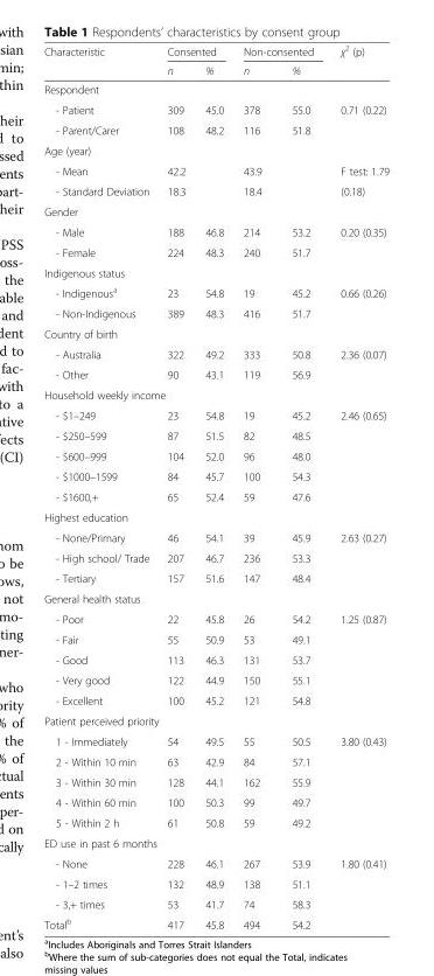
<table><thead><tr><td rowspan="2">Characteristic</td><td colspan="2">Consented</td><td colspan="2">Non-consented</td><td rowspan="2">χ<sup>2</sup> (p)</td></tr><tr><td>n</td><td>%</td><td>n</td><td>%</td></tr></thead><tbody><tr><td colspan="6">Respondent</td></tr><tr><td>- Patient</td><td>309</td><td>45.0</td><td>378</td><td>55.0</td><td>0.71 (0.22)</td></tr><tr><td>- Parent/Carer</td><td>108</td><td>48.2</td><td>116</td><td>51.8</td><td></td></tr><tr><td colspan="6">Age (year)</td></tr><tr><td>- Mean</td><td>42.2</td><td></td><td>43.9</td><td></td><td>F test: 1.79</td></tr><tr><td>- Standard Deviation</td><td>18.3</td><td></td><td>18.4</td><td></td><td>(0.18)</td></tr><tr><td colspan="6">Gender</td></tr><tr><td>- Male</td><td>188</td><td>46.8</td><td>214</td><td>53.2</td><td>0.20 (0.35)</td></tr><tr><td>- Female</td><td>224</td><td>48.3</td><td>240</td><td>51.7</td><td></td></tr><tr><td colspan="6">Indigenous status</td></tr><tr><td>- Indigenous<sup>a</sup></td><td>23</td><td>54.8</td><td>19</td><td>45.2</td><td>0.66 (0.26)</td></tr><tr><td>- Non-Indigenous</td><td>389</td><td>48.3</td><td>416</td><td>51.7</td><td></td></tr><tr><td colspan="6">Country of birth</td></tr><tr><td>- Australia</td><td>322</td><td>49.2</td><td>333</td><td>50.8</td><td>2.36 (0.07)</td></tr><tr><td>- Other</td><td>90</td><td>43.1</td><td>119</td><td>56.9</td><td></td></tr><tr><td colspan="6">Household weekly income</td></tr><tr><td>- $1–249</td><td>23</td><td>54.8</td><td>19</td><td>45.2</td><td>2.46 (0.65)</td></tr><tr><td>- $250–599</td><td>87</td><td>51.5</td><td>82</td><td>48.5</td><td></td></tr><tr><td>- $600–999</td><td>104</td><td>52.0</td><td>96</td><td>48.0</td><td></td></tr><tr><td>- $1000–1599</td><td>84</td><td>45.7</td><td>100</td><td>54.3</td><td></td></tr><tr><td>- $1600,+</td><td>65</td><td>52.4</td><td>59</td><td>47.6</td><td></td></tr><tr><td colspan="6">Highest education</td></tr><tr><td>- None/Primary</td><td>46</td><td>54.1</td><td>39</td><td>45.9</td><td>2.63 (0.27)</td></tr><tr><td>- High school/ Trade</td><td>207</td><td>46.7</td><td>236</td><td>53.3</td><td></td></tr><tr><td>- Tertiary</td><td>157</td><td>51.6</td><td>147</td><td>48.4</td><td></td></tr><tr><td colspan="6">General health status</td></tr><tr><td>- Poor</td><td>22</td><td>45.8</td><td>26</td><td>54.2</td><td>1.25 (0.87)</td></tr><tr><td>- Fair</td><td>55</td><td>50.9</td><td>53</td><td>49.1</td><td></td></tr><tr><td>- Good</td><td>113</td><td>46.3</td><td>131</td><td>53.7</td><td></td></tr><tr><td>- Very good</td><td>122</td><td>44.9</td><td>150</td><td>55.1</td><td></td></tr><tr><td>- Excellent</td><td>100</td><td>45.2</td><td>121</td><td>54.8</td><td></td></tr><tr><td colspan="6">Patient perceived priority</td></tr><tr><td>1 - Immediately</td><td>54</td><td>49.5</td><td>55</td><td>50.5</td><td>3.80 (0.43)</td></tr><tr><td>2 - Within 10 min</td><td>63</td><td>42.9</td><td>84</td><td>57.1</td><td></td></tr><tr><td>3 - Within 30 min</td><td>128</td><td>44.1</td><td>162</td><td>55.9</td><td></td></tr><tr><td>4 - Within 60 min</td><td>100</td><td>50.3</td><td>99</td><td>49.7</td><td></td></tr><tr><td>5 - Within 2 h</td><td>61</td><td>50.8</td><td>59</td><td>49.2</td><td></td></tr><tr><td colspan="6">ED use in past 6 months</td></tr><tr><td>- None</td><td>228</td><td>46.1</td><td>267</td><td>53.9</td><td>1.80 (0.41)</td></tr><tr><td>- 1–2 times</td><td>132</td><td>48.9</td><td>138</td><td>51.1</td><td></td></tr><tr><td>- 3,+ times</td><td>53</td><td>41.7</td><td>74</td><td>58.3</td><td></td></tr><tr><td>Total<sup>b</sup></td><td>417</td><td>45.8</td><td>494</td><td>54.2</td><td></td></tr></tbody></table>